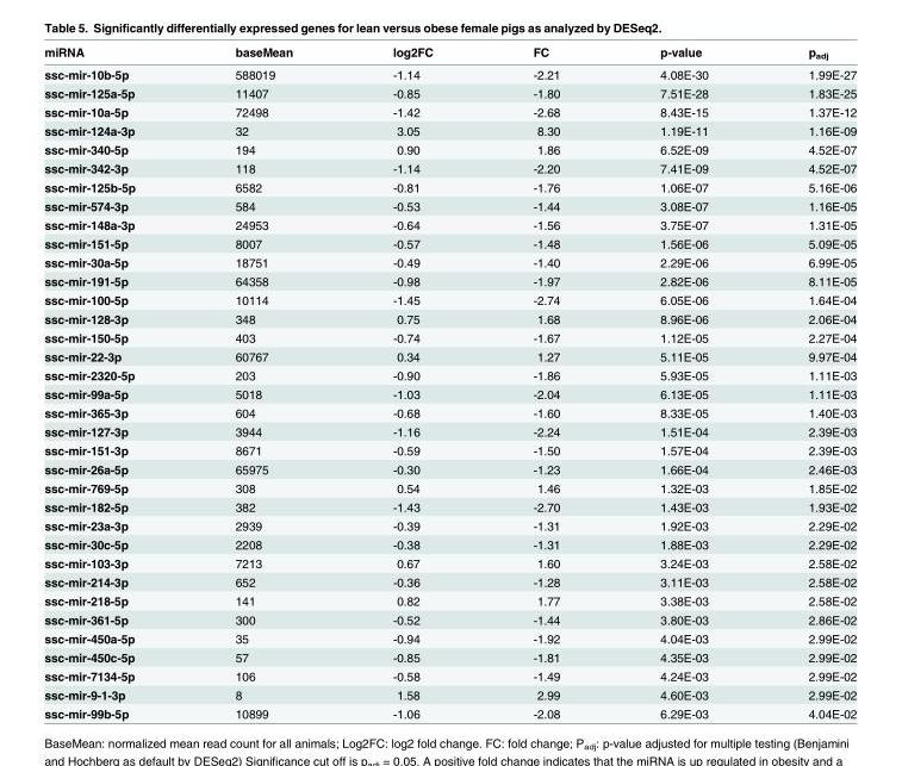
<table><thead><tr><td>miRNA</td><td>baseMean</td><td>log2FC</td><td>FC</td><td>p-value</td><td>p<sub>adj</sub></td></tr></thead><tbody><tr><td>ssc-mir-10b-5p</td><td>588019</td><td>-1.14</td><td>-2.21</td><td>4.08E-30</td><td>1.99E-27</td></tr><tr><td>ssc-mir-125a-5p</td><td>11407</td><td>-0.85</td><td>-1.80</td><td>7.51E-28</td><td>1.83E-25</td></tr><tr><td>ssc-mir-10a-5p</td><td>72498</td><td>-1.42</td><td>-2.68</td><td>8.43E-15</td><td>1.37E-12</td></tr><tr><td>ssc-mir-124a-3p</td><td>32</td><td>3.05</td><td>8.30</td><td>1.19E-11</td><td>1.16E-09</td></tr><tr><td>ssc-mir-340-5p</td><td>194</td><td>0.90</td><td>1.86</td><td>6.52E-09</td><td>4.52E-07</td></tr><tr><td>ssc-mir-342-3p</td><td>118</td><td>-1.14</td><td>-2.20</td><td>7.41E-09</td><td>4.52E-07</td></tr><tr><td>ssc-mir-125b-5p</td><td>6582</td><td>-0.81</td><td>-1.76</td><td>1.06E-07</td><td>5.16E-06</td></tr><tr><td>ssc-mir-574-3p</td><td>584</td><td>-0.53</td><td>-1.44</td><td>3.08E-07</td><td>1.16E-05</td></tr><tr><td>ssc-mir-148a-3p</td><td>24953</td><td>-0.64</td><td>-1.56</td><td>3.75E-07</td><td>1.31E-05</td></tr><tr><td>ssc-mir-151-5p</td><td>8007</td><td>-0.57</td><td>-1.48</td><td>1.56E-06</td><td>5.09E-05</td></tr><tr><td>ssc-mir-30a-5p</td><td>18751</td><td>-0.49</td><td>-1.40</td><td>2.29E-06</td><td>6.99E-05</td></tr><tr><td>ssc-mir-191-5p</td><td>64358</td><td>-0.98</td><td>-1.97</td><td>2.82E-06</td><td>8.11E-05</td></tr><tr><td>ssc-mir-100-5p</td><td>10114</td><td>-1.45</td><td>-2.74</td><td>6.05E-06</td><td>1.64E-04</td></tr><tr><td>ssc-mir-128-3p</td><td>348</td><td>0.75</td><td>1.68</td><td>8.96E-06</td><td>2.06E-04</td></tr><tr><td>ssc-mir-150-5p</td><td>403</td><td>-0.74</td><td>-1.67</td><td>1.12E-05</td><td>2.27E-04</td></tr><tr><td>ssc-mir-22-3p</td><td>60767</td><td>0.34</td><td>1.27</td><td>5.11E-05</td><td>9.97E-04</td></tr><tr><td>ssc-mir-2320-5p</td><td>203</td><td>-0.90</td><td>-1.86</td><td>5.93E-05</td><td>1.11E-03</td></tr><tr><td>ssc-mir-99a-5p</td><td>5018</td><td>-1.03</td><td>-2.04</td><td>6.13E-05</td><td>1.11E-03</td></tr><tr><td>ssc-mir-365-3p</td><td>604</td><td>-0.68</td><td>-1.60</td><td>8.33E-05</td><td>1.40E-03</td></tr><tr><td>ssc-mir-127-3p</td><td>3944</td><td>-1.16</td><td>-2.24</td><td>1.51E-04</td><td>2.39E-03</td></tr><tr><td>ssc-mir-151-3p</td><td>8671</td><td>-0.59</td><td>-1.50</td><td>1.57E-04</td><td>2.39E-03</td></tr><tr><td>ssc-mir-26a-5p</td><td>65975</td><td>-0.30</td><td>-1.23</td><td>1.66E-04</td><td>2.46E-03</td></tr><tr><td>ssc-mir-769-5p</td><td>308</td><td>0.54</td><td>1.46</td><td>1.32E-03</td><td>1.85E-02</td></tr><tr><td>ssc-mir-182-5p</td><td>382</td><td>-1.43</td><td>-2.70</td><td>1.43E-03</td><td>1.93E-02</td></tr><tr><td>ssc-mir-23a-3p</td><td>2939</td><td>-0.39</td><td>-1.31</td><td>1.92E-03</td><td>2.29E-02</td></tr><tr><td>ssc-mir-30c-5p</td><td>2208</td><td>-0.38</td><td>-1.31</td><td>1.88E-03</td><td>2.29E-02</td></tr><tr><td>ssc-mir-103-3p</td><td>7213</td><td>0.67</td><td>1.60</td><td>3.24E-03</td><td>2.58E-02</td></tr><tr><td>ssc-mir-214-3p</td><td>652</td><td>-0.36</td><td>-1.28</td><td>3.11E-03</td><td>2.58E-02</td></tr><tr><td>ssc-mir-218-5p</td><td>141</td><td>0.82</td><td>1.77</td><td>3.38E-03</td><td>2.58E-02</td></tr><tr><td>ssc-mir-361-5p</td><td>300</td><td>-0.52</td><td>-1.44</td><td>3.80E-03</td><td>2.86E-02</td></tr><tr><td>ssc-mir-450a-5p</td><td>35</td><td>-0.94</td><td>-1.92</td><td>4.04E-03</td><td>2.99E-02</td></tr><tr><td>ssc-mir-450c-5p</td><td>57</td><td>-0.85</td><td>-1.81</td><td>4.35E-03</td><td>2.99E-02</td></tr><tr><td>ssc-mir-7134-5p</td><td>106</td><td>-0.58</td><td>-1.49</td><td>4.24E-03</td><td>2.99E-02</td></tr><tr><td>ssc-mir-9-1-3p</td><td>8</td><td>1.58</td><td>2.99</td><td>4.60E-03</td><td>2.99E-02</td></tr><tr><td>ssc-mir-99b-5p</td><td>10899</td><td>-1.06</td><td>-2.08</td><td>6.29E-03</td><td>4.04E-02</td></tr></tbody></table>